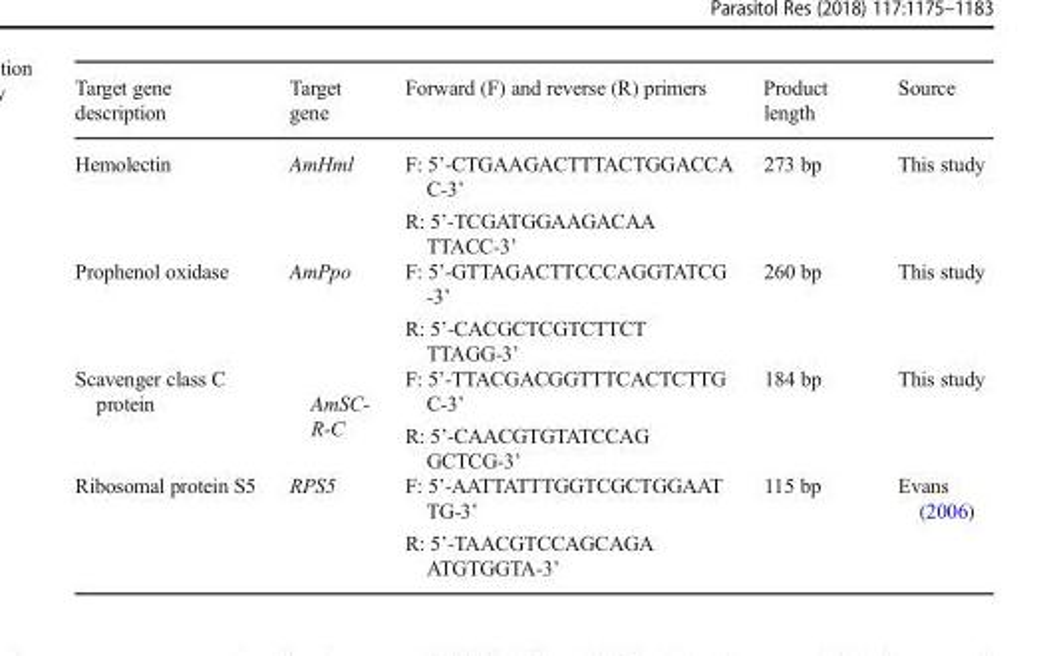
<table><thead><tr><td>Target gene description</td><td>Target gene</td><td>Forward (F) and reverse (R) primers</td><td>Product length</td><td>Source</td></tr></thead><tbody><tr><td>Hemolectin</td><td>AmHml</td><td>F: 5’-CTGAAGACTTTACTGGACCA C-3’ R: 5’-TCGATGGAAGACAA TTACC-3’</td><td>273 bp</td><td>This study</td></tr><tr><td>Prophenol oxidase</td><td>AmPpo</td><td>F: 5’-GTTAGACTTCCCAGGTATCG -3’ R: 5’-CACGCTCGTCTTCT TTAGG-3’</td><td>260 bp</td><td>This study</td></tr><tr><td>Scavenger class C protein</td><td>AmSC- R-C</td><td>F: 5’-TTACGACGGTTTCACTCTTG C-3’ R: 5’-CAACGTGTATCCAG GCTCG-3’</td><td>184 bp</td><td>This study</td></tr><tr><td>Ribosomal protein S5</td><td>RPS5</td><td>F: 5’-AATTATTTGGTCGCTGGAAT TG-3’ R: 5’-TAACGTCCAGCAGA ATGTGGTA-3’</td><td>115 bp</td><td>Evans (2006)</td></tr></tbody></table>